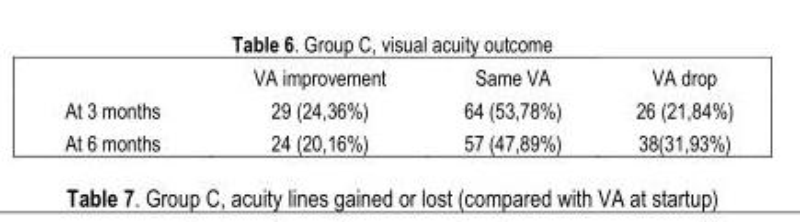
<table><thead><tr><td></td><td>VA improvement</td><td>Same VA</td><td>VA drop</td></tr></thead><tbody><tr><td>At 3 months</td><td>29 (24,36%)</td><td>64 (53,78%)</td><td>26 (21,84%)</td></tr><tr><td>At 6 months</td><td>24 (20,16%)</td><td>57 (47,89%)</td><td>38(31,93%)</td></tr></tbody></table>